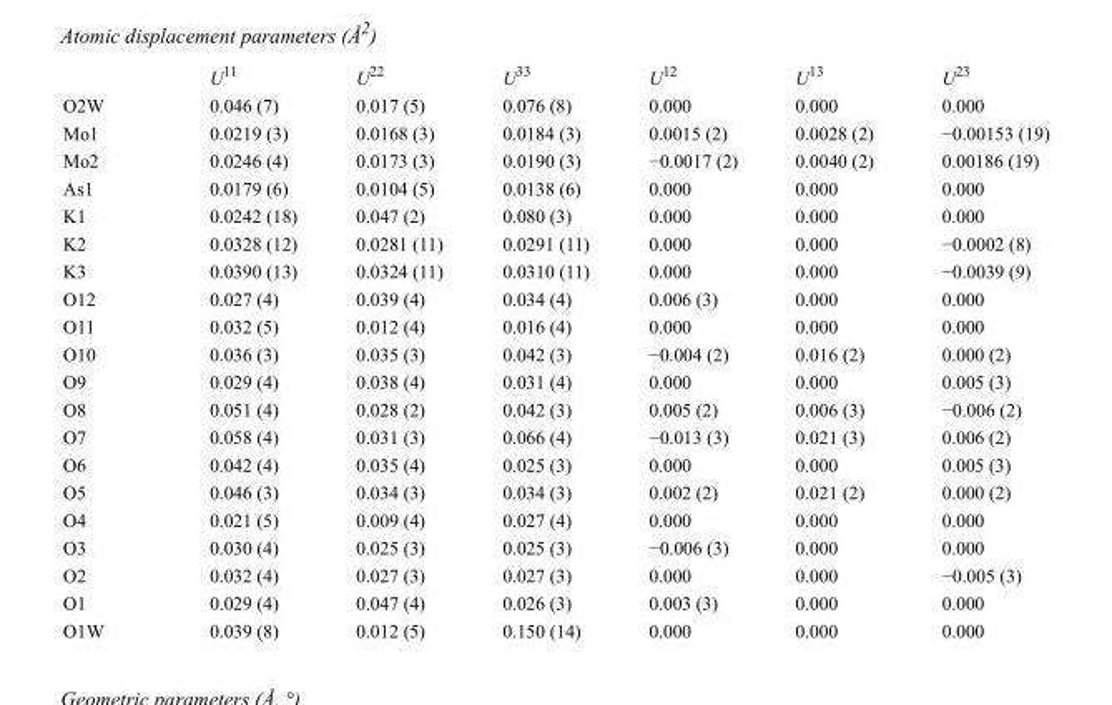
<table><thead><tr><td></td><td>U<sup>11</sup></td><td>U<sup>22</sup></td><td>U<sup>33</sup></td><td>U<sup>12</sup></td><td>U<sup>13</sup></td><td>U<sup>23</sup></td></tr></thead><tbody><tr><td>O2W</td><td>0.046 (7)</td><td>0.017 (5)</td><td>0.076 (8)</td><td>0.000</td><td>0.000</td><td>0.000</td></tr><tr><td>Mo1</td><td>0.0219 (3)</td><td>0.0168 (3)</td><td>0.0184 (3)</td><td>0.0015 (2)</td><td>0.0028 (2)</td><td>−0.00153 (19)</td></tr><tr><td>Mo2</td><td>0.0246 (4)</td><td>0.0173 (3)</td><td>0.0190 (3)</td><td>−0.0017 (2)</td><td>0.0040 (2)</td><td>0.00186 (19)</td></tr><tr><td>As1</td><td>0.0179 (6)</td><td>0.0104 (5)</td><td>0.0138 (6)</td><td>0.000</td><td>0.000</td><td>0.000</td></tr><tr><td>K1</td><td>0.0242 (18)</td><td>0.047 (2)</td><td>0.080 (3)</td><td>0.000</td><td>0.000</td><td>0.000</td></tr><tr><td>K2</td><td>0.0328 (12)</td><td>0.0281 (11)</td><td>0.0291 (11)</td><td>0.000</td><td>0.000</td><td>−0.0002 (8)</td></tr><tr><td>K3</td><td>0.0390 (13)</td><td>0.0324 (11)</td><td>0.0310 (11)</td><td>0.000</td><td>0.000</td><td>−0.0039 (9)</td></tr><tr><td>O12</td><td>0.027 (4)</td><td>0.039 (4)</td><td>0.034 (4)</td><td>0.006 (3)</td><td>0.000</td><td>0.000</td></tr><tr><td>O11</td><td>0.032 (5)</td><td>0.012 (4)</td><td>0.016 (4)</td><td>0.000</td><td>0.000</td><td>0.000</td></tr><tr><td>O10</td><td>0.036 (3)</td><td>0.035 (3)</td><td>0.042 (3)</td><td>−0.004 (2)</td><td>0.016 (2)</td><td>0.000 (2)</td></tr><tr><td>O9</td><td>0.029 (4)</td><td>0.038 (4)</td><td>0.031 (4)</td><td>0.000</td><td>0.000</td><td>0.005 (3)</td></tr><tr><td>O8</td><td>0.051 (4)</td><td>0.028 (2)</td><td>0.042 (3)</td><td>0.005 (2)</td><td>0.006 (3)</td><td>−0.006 (2)</td></tr><tr><td>O7</td><td>0.058 (4)</td><td>0.031 (3)</td><td>0.066 (4)</td><td>−0.013 (3)</td><td>0.021 (3)</td><td>0.006 (2)</td></tr><tr><td>O6</td><td>0.042 (4)</td><td>0.035 (4)</td><td>0.025 (3)</td><td>0.000</td><td>0.000</td><td>0.005 (3)</td></tr><tr><td>O5</td><td>0.046 (3)</td><td>0.034 (3)</td><td>0.034 (3)</td><td>0.002 (2)</td><td>0.021 (2)</td><td>0.000 (2)</td></tr><tr><td>O4</td><td>0.021 (5)</td><td>0.009 (4)</td><td>0.027 (4)</td><td>0.000</td><td>0.000</td><td>0.000</td></tr><tr><td>O3</td><td>0.030 (4)</td><td>0.025 (3)</td><td>0.025 (3)</td><td>−0.006 (3)</td><td>0.000</td><td>0.000</td></tr><tr><td>O2</td><td>0.032 (4)</td><td>0.027 (3)</td><td>0.027 (3)</td><td>0.000</td><td>0.000</td><td>−0.005 (3)</td></tr><tr><td>O1</td><td>0.029 (4)</td><td>0.047 (4)</td><td>0.026 (3)</td><td>0.003 (3)</td><td>0.000</td><td>0.000</td></tr><tr><td>O1W</td><td>0.039 (8)</td><td>0.012 (5)</td><td>0.150 (14)</td><td>0.000</td><td>0.000</td><td>0.000</td></tr></tbody></table>